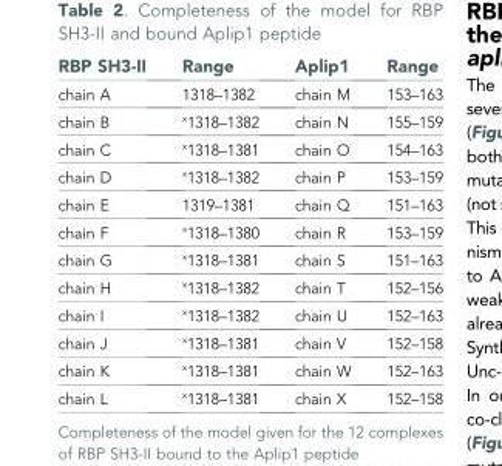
<table><thead><tr><td>RBP SH3-II</td><td>Range</td><td>Aplip1</td><td>Range</td></tr></thead><tbody><tr><td>chain A</td><td>1318–1382</td><td>chain M</td><td>153–163</td></tr><tr><td>chain B</td><td><sup>x</sup>1318–1382</td><td>chain N</td><td>155–159</td></tr><tr><td>chain C</td><td><sup>x</sup>1318–1381</td><td>chain O</td><td>154–163</td></tr><tr><td>chain D</td><td><sup>x</sup>1318–1382</td><td>chain P</td><td>153–159</td></tr><tr><td>chain E</td><td>1319–1381</td><td>chain Q</td><td>151–163</td></tr><tr><td>chain F</td><td><sup>x</sup>1318–1380</td><td>chain R</td><td>153–159</td></tr><tr><td>chain G</td><td><sup>x</sup>1318–1381</td><td>chain S</td><td>151–163</td></tr><tr><td>chain H</td><td><sup>x</sup>1318–1382</td><td>chain T</td><td>152–156</td></tr><tr><td>chain I</td><td><sup>x</sup>1318–1382</td><td>chain U</td><td>152–163</td></tr><tr><td>chain J</td><td><sup>x</sup>1318–1381</td><td>chain V</td><td>152–158</td></tr><tr><td>chain K</td><td><sup>x</sup>1318–1381</td><td>chain W</td><td>152–163</td></tr><tr><td>chain L</td><td><sup>x</sup>1318–1381</td><td>chain X</td><td>152–158</td></tr></tbody></table>